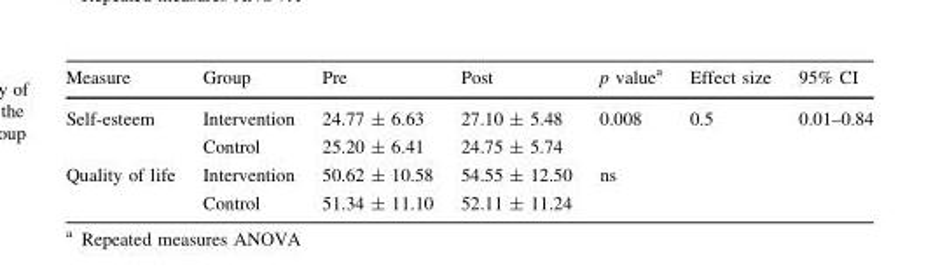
<table><thead><tr><td>Measure</td><td>Group</td><td>Pre</td><td>Post</td><td>p value<sup>a</sup></td><td>Effect size</td><td>95% CI</td></tr></thead><tbody><tr><td rowspan="2">Self-esteem</td><td>Intervention</td><td>24.77 ± 6.63</td><td>27.10 ± 5.48</td><td rowspan="2">0.008</td><td rowspan="2">0.5</td><td rowspan="2">0.01–0.84</td></tr><tr><td>Control</td><td>25.20 ± 6.41</td><td>24.75 ± 5.74</td></tr><tr><td rowspan="2">Quality of life</td><td>Intervention</td><td>50.62 ± 10.58</td><td>54.55 ± 12.50</td><td rowspan="2">ns</td><td rowspan="2"></td><td rowspan="2"></td></tr><tr><td>Control</td><td>51.34 ± 11.10</td><td>52.11 ± 11.24</td></tr></tbody></table>